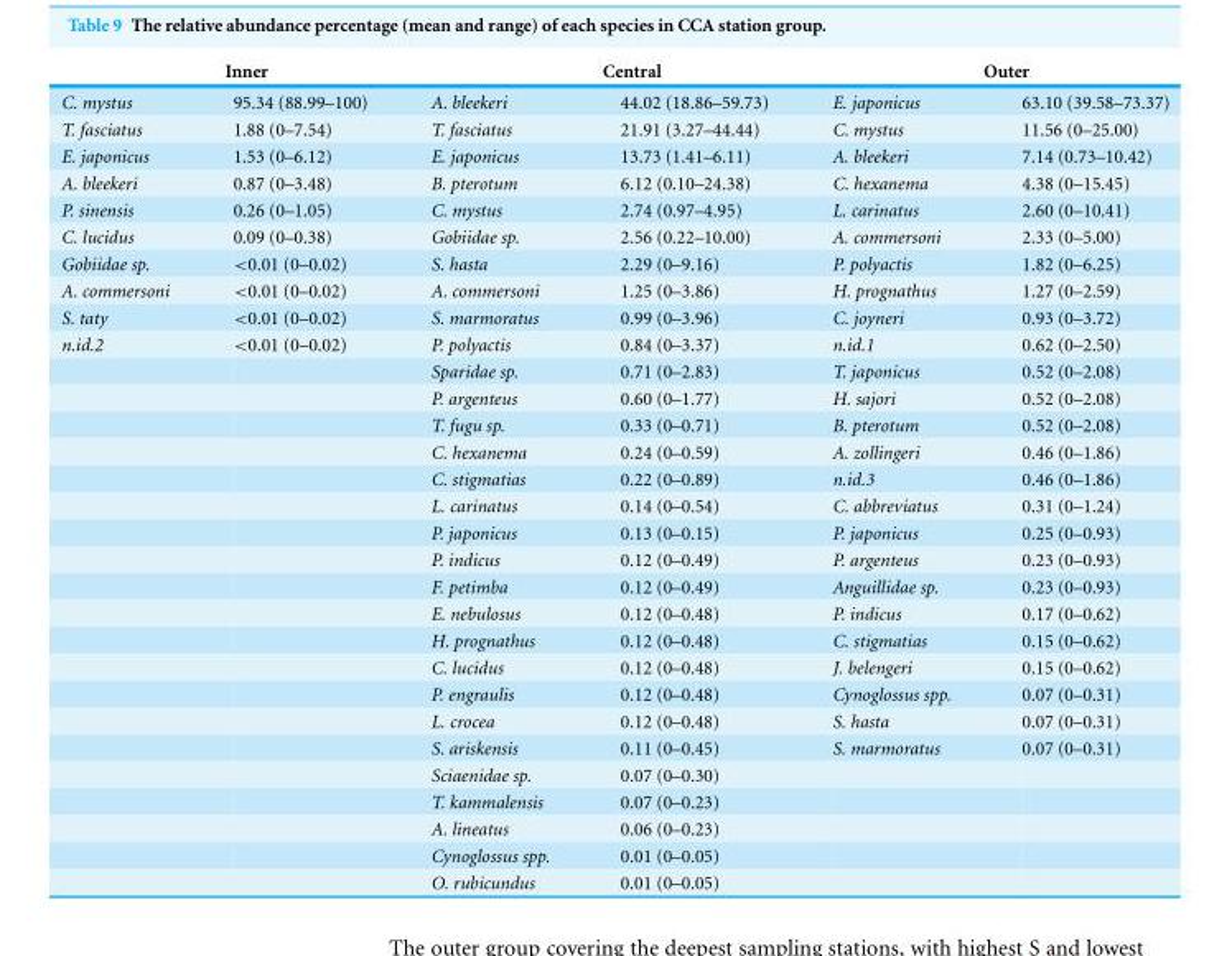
<table><thead><tr><td colspan="2">Inner</td><td colspan="2">Central</td><td colspan="2">Outer</td></tr><tr><td>C. mystus</td><td>95.34 (88.99–100)</td><td>A. bleekeri</td><td>44.02 (18.86–59.73)</td><td>E. japonicus</td><td>63.10 (39.58–73.37)</td></tr></thead><tbody><tr><td>T. fasciatus</td><td>1.88 (0–7.54)</td><td>T. fasciatus</td><td>21.91 (3.27–44.44)</td><td>C. mystus</td><td>11.56 (0–25.00)</td></tr><tr><td>E. japonicus</td><td>1.53 (0–6.12)</td><td>E. japonicus</td><td>13.73 (1.41–6.11)</td><td>A. bleekeri</td><td>7.14 (0.73–10.42)</td></tr><tr><td>A. bleekeri</td><td>0.87 (0–3.48)</td><td>B. pterotum</td><td>6.12 (0.10–24.38)</td><td>C. hexanema</td><td>4.38 (0–15.45)</td></tr><tr><td>P. sinensis</td><td>0.26 (0–1.05)</td><td>C. mystus</td><td>2.74 (0.97–4.95)</td><td>L. carinatus</td><td>2.60 (0–10.41)</td></tr><tr><td>C. lucidus</td><td>0.09 (0–0.38)</td><td>Gobiidae sp.</td><td>2.56 (0.22–10.00)</td><td>A. commersoni</td><td>2.33 (0–5.00)</td></tr><tr><td>Gobiidae sp.</td><td>&lt;0.01 (0–0.02)</td><td>S. hasta</td><td>2.29 (0–9.16)</td><td>P. polyactis</td><td>1.82 (0–6.25)</td></tr><tr><td>A. commersoni</td><td>&lt;0.01 (0–0.02)</td><td>A. commersoni</td><td>1.25 (0–3.86)</td><td>H. prognathus</td><td>1.27 (0–2.59)</td></tr><tr><td>S. taty</td><td>&lt;0.01 (0–0.02)</td><td>S. marmoratus</td><td>0.99 (0–3.96)</td><td>C. joyneri</td><td>0.93 (0–3.72)</td></tr><tr><td rowspan="21">n.id.2</td><td>&lt;0.01 (0–0.02)</td><td>P. polyactis</td><td>0.84 (0–3.37)</td><td>n.id.1</td><td>0.62 (0–2.50)</td></tr><tr><td></td><td>Sparidae sp.</td><td>0.71 (0–2.83)</td><td>T. japonicus</td><td>0.52 (0–2.08)</td></tr><tr><td></td><td>P. argenteus</td><td>0.60 (0–1.77)</td><td>H. sajori</td><td>0.52 (0–2.08)</td></tr><tr><td></td><td>T. fugu sp.</td><td>0.33 (0–0.71)</td><td>B. pterotum</td><td>0.52 (0–2.08)</td></tr><tr><td></td><td>C. hexanema</td><td>0.24 (0–0.59)</td><td>A. zollingeri</td><td>0.46 (0–1.86)</td></tr><tr><td></td><td>C. stigmatias</td><td>0.22 (0–0.89)</td><td>n.id.3</td><td>0.46 (0–1.86)</td></tr><tr><td></td><td>L. carinatus</td><td>0.14 (0–0.54)</td><td>C. abbreviatus</td><td>0.31 (0–1.24)</td></tr><tr><td></td><td>P. japonicus</td><td>0.13 (0–0.15)</td><td>P. japonicus</td><td>0.25 (0–0.93)</td></tr><tr><td></td><td>P. indicus</td><td>0.12 (0–0.49)</td><td>P. argenteus</td><td>0.23 (0–0.93)</td></tr><tr><td></td><td>F. petimba</td><td>0.12 (0–0.49)</td><td>Anguillidae sp.</td><td>0.23 (0–0.93)</td></tr><tr><td></td><td>E. nebulosus</td><td>0.12 (0–0.48)</td><td>P. indicus</td><td>0.17 (0–0.62)</td></tr><tr><td></td><td>H. prognathus</td><td>0.12 (0–0.48)</td><td>C. stigmatias</td><td>0.15 (0–0.62)</td></tr><tr><td></td><td>C. lucidus</td><td>0.12 (0–0.48)</td><td>J. belengeri</td><td>0.15 (0–0.62)</td></tr><tr><td></td><td>P. engraulis</td><td>0.12 (0–0.48)</td><td>Cynoglossus spp.</td><td>0.07 (0–0.31)</td></tr><tr><td></td><td>L. crocea</td><td>0.12 (0–0.48)</td><td>S. hasta</td><td>0.07 (0–0.31)</td></tr><tr><td></td><td>S. ariskensis</td><td>0.11 (0–0.45)</td><td>S. marmoratus</td><td>0.07 (0–0.31)</td></tr><tr><td></td><td>Sciaenidae sp.</td><td>0.07 (0–0.30)</td><td></td><td></td></tr><tr><td></td><td>T. kammalensis</td><td>0.07 (0–0.23)</td><td></td><td></td></tr><tr><td></td><td>A. lineatus</td><td>0.06 (0–0.23)</td><td></td><td></td></tr><tr><td></td><td>Cynoglossus spp.</td><td>0.01 (0–0.05)</td><td></td><td></td></tr><tr><td></td><td>O. rubicundus</td><td>0.01 (0–0.05)</td><td></td><td></td></tr></tbody></table>